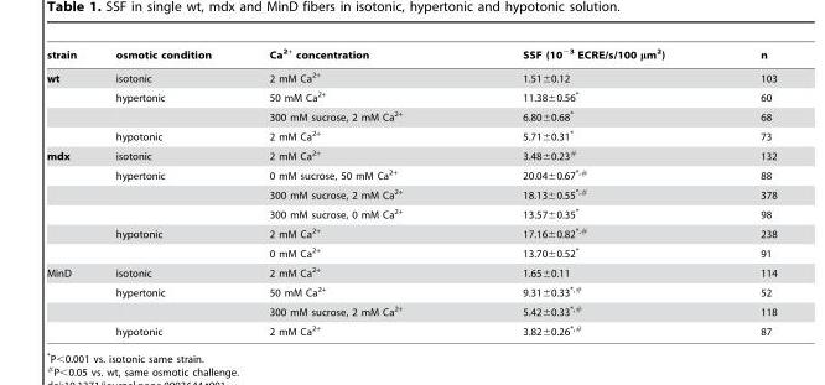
<table><thead><tr><td>strain</td><td>osmotic condition</td><td>Ca<sup>2+</sup> concentration</td><td>SSF (10<sup>−3</sup> ECRE/s/100 μm<sup>2</sup>)</td><td>n</td></tr></thead><tbody><tr><td rowspan="4">wt</td><td>isotonic</td><td>2 mM Ca<sup>2+</sup></td><td>1.51±0.12</td><td>103</td></tr><tr><td>hypertonic</td><td>50 mM Ca<sup>2+</sup></td><td>11.38±0.56*</td><td>60</td></tr><tr><td></td><td>300 mM sucrose, 2 mM Ca<sup>2+</sup></td><td>6.80±0.68*</td><td>68</td></tr><tr><td>hypotonic</td><td>2 mM Ca<sup>2+</sup></td><td>5.71±0.31*</td><td>73</td></tr><tr><td rowspan="6">mdx</td><td>isotonic</td><td>2 mM Ca<sup>2+</sup></td><td>3.48±0.23#</td><td>132</td></tr><tr><td>hypertonic</td><td>0 mM sucrose, 50 mM Ca<sup>2+</sup></td><td>20.04±0.67*<sup>,</sup>#</td><td>88</td></tr><tr><td></td><td>300 mM sucrose, 2 mM Ca<sup>2+</sup></td><td>18.13±0.55*<sup>,</sup>#</td><td>378</td></tr><tr><td></td><td>300 mM sucrose, 0 mM Ca<sup>2+</sup></td><td>13.57±0.35*</td><td>98</td></tr><tr><td>hypotonic</td><td>2 mM Ca<sup>2+</sup></td><td>17.16±0.82*<sup>,</sup>#</td><td>238</td></tr><tr><td></td><td>0 mM Ca<sup>2+</sup></td><td>13.70±0.52*</td><td>91</td></tr><tr><td rowspan="4">MinD</td><td>isotonic</td><td>2 mM Ca<sup>2+</sup></td><td>1.65±0.11</td><td>114</td></tr><tr><td>hypertonic</td><td>50 mM Ca<sup>2+</sup></td><td>9.31±0.33*<sup>,</sup>#</td><td>52</td></tr><tr><td></td><td>300 mM sucrose, 2 mM Ca<sup>2+</sup></td><td>5.42±0.33*<sup>,</sup>#</td><td>118</td></tr><tr><td>hypotonic</td><td>2 mM Ca<sup>2+</sup></td><td>3.82±0.26*<sup>,</sup>#</td><td>87</td></tr></tbody></table>